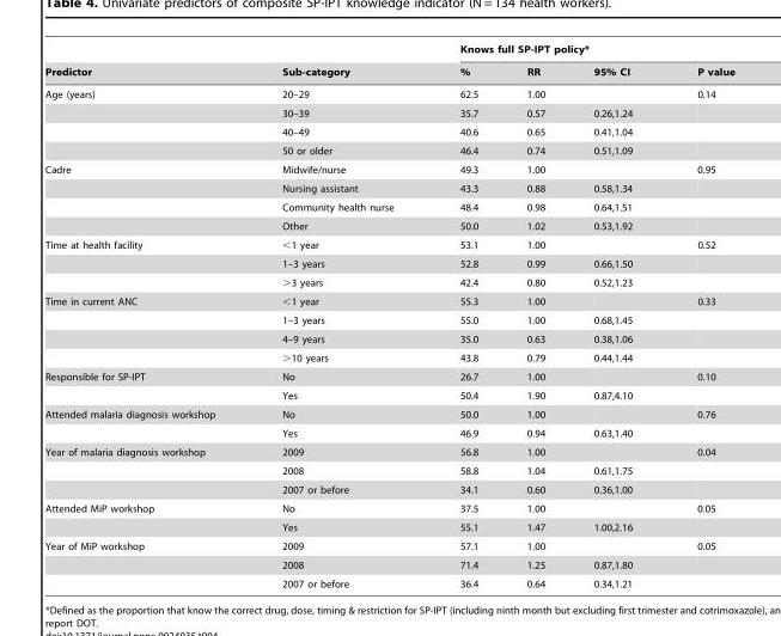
<table><thead><tr><td rowspan="2">Predictor</td><td rowspan="2">Sub-category</td><td colspan="4">Knows full SP-IPT policy*</td></tr><tr><td>%</td><td>RR</td><td>95% CI</td><td>P value</td></tr></thead><tbody><tr><td rowspan="4">Age (years)</td><td>20–29</td><td>62.5</td><td>1.00</td><td></td><td>0.14</td></tr><tr><td>30–39</td><td>35.7</td><td>0.57</td><td>0.26,1.24</td><td></td></tr><tr><td>40–49</td><td>40.6</td><td>0.65</td><td>0.41,1.04</td><td></td></tr><tr><td>50 or older</td><td>46.4</td><td>0.74</td><td>0.51,1.09</td><td></td></tr><tr><td rowspan="4">Cadre</td><td>Midwife/nurse</td><td>49.3</td><td>1.00</td><td></td><td>0.95</td></tr><tr><td>Nursing assistant</td><td>43.3</td><td>0.88</td><td>0.58,1.34</td><td></td></tr><tr><td>Community health nurse</td><td>48.4</td><td>0.98</td><td>0.64,1.51</td><td></td></tr><tr><td>Other</td><td>50.0</td><td>1.02</td><td>0.53,1.92</td><td></td></tr><tr><td rowspan="3">Time at health facility</td><td>&lt;1 year</td><td>53.1</td><td>1.00</td><td></td><td>0.52</td></tr><tr><td>1–3 years</td><td>52.8</td><td>0.99</td><td>0.66,1.50</td><td></td></tr><tr><td>&gt;3 years</td><td>42.4</td><td>0.80</td><td>0.52,1.23</td><td></td></tr><tr><td rowspan="4">Time in current ANC</td><td>&lt;1 year</td><td>55.3</td><td>1.00</td><td></td><td>0.33</td></tr><tr><td>1–3 years</td><td>55.0</td><td>1.00</td><td>0.68,1.45</td><td></td></tr><tr><td>4–9 years</td><td>35.0</td><td>0.63</td><td>0.38,1.06</td><td></td></tr><tr><td>&gt;10 years</td><td>43.8</td><td>0.79</td><td>0.44,1.44</td><td></td></tr><tr><td rowspan="2">Responsible for SP-IPT</td><td>No</td><td>26.7</td><td>1.00</td><td></td><td>0.10</td></tr><tr><td>Yes</td><td>50.4</td><td>1.90</td><td>0.87,4.10</td><td></td></tr><tr><td rowspan="2">Attended malaria diagnosis workshop</td><td>No</td><td>50.0</td><td>1.00</td><td></td><td>0.76</td></tr><tr><td>Yes</td><td>46.9</td><td>0.94</td><td>0.63,1.40</td><td></td></tr><tr><td rowspan="3">Year of malaria diagnosis workshop</td><td>2009</td><td>56.8</td><td>1.00</td><td></td><td>0.04</td></tr><tr><td>2008</td><td>58.8</td><td>1.04</td><td>0.61,1.75</td><td></td></tr><tr><td>2007 or before</td><td>34.1</td><td>0.60</td><td>0.36,1.00</td><td></td></tr><tr><td rowspan="2">Attended MiP workshop</td><td>No</td><td>37.5</td><td>1.00</td><td></td><td>0.05</td></tr><tr><td>Yes</td><td>55.1</td><td>1.47</td><td>1.00,2.16</td><td></td></tr><tr><td rowspan="3">Year of MiP workshop</td><td>2009</td><td>57.1</td><td>1.00</td><td></td><td>0.05</td></tr><tr><td>2008</td><td>71.4</td><td>1.25</td><td>0.87,1.80</td><td></td></tr><tr><td>2007 or before</td><td>36.4</td><td>0.64</td><td>0.34,1.21</td><td></td></tr></tbody></table>